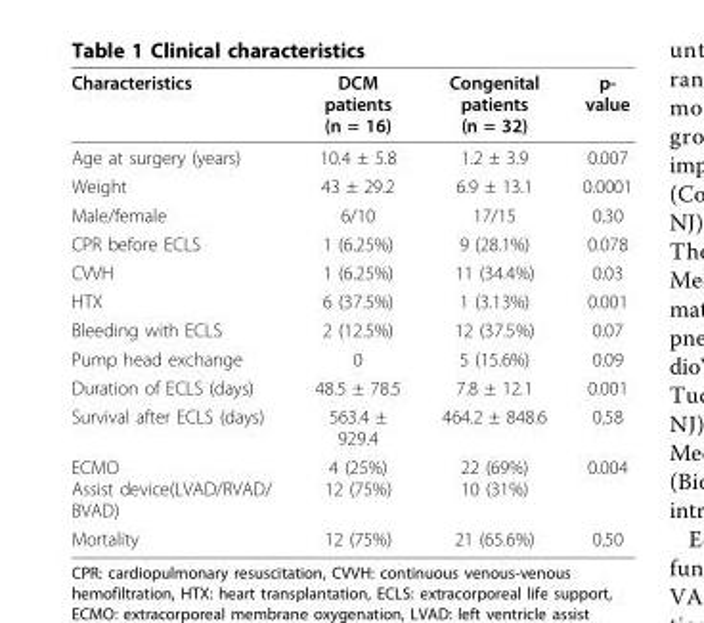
<table><thead><tr><td>Characteristics</td><td>DCM patients (n = 16)</td><td>Congenital patients (n = 32)</td><td>p- value</td></tr></thead><tbody><tr><td>Age at surgery (years)</td><td>10.4 ± 5.8</td><td>1.2 ± 3.9</td><td>0.007</td></tr><tr><td>Weight</td><td>43 ± 29.2</td><td>6.9 ± 13.1</td><td>0.0001</td></tr><tr><td>Male/female</td><td>6/10</td><td>17/15</td><td>0.30</td></tr><tr><td>CPR before ECLS</td><td>1 (6.25%)</td><td>9 (28.1%)</td><td>0.078</td></tr><tr><td>CVVH</td><td>1 (6.25%)</td><td>11 (34.4%)</td><td>0.03</td></tr><tr><td>HTX</td><td>6 (37.5%)</td><td>1 (3.13%)</td><td>0.001</td></tr><tr><td>Bleeding with ECLS</td><td>2 (12.5%)</td><td>12 (37.5%)</td><td>0.07</td></tr><tr><td>Pump head exchange</td><td>0</td><td>5 (15.6%)</td><td>0.09</td></tr><tr><td>Duration of ECLS (days)</td><td>48.5 ± 78.5</td><td>7.8 ± 12.1</td><td>0.001</td></tr><tr><td>Survival after ECLS (days)</td><td>563.4 ± 929.4</td><td>464.2 ± 848.6</td><td>0.58</td></tr><tr><td>ECMO Assist device(LVAD/RVAD/ BVAD)</td><td>4 (25%) 12 (75%)</td><td>22 (69%) 10 (31%)</td><td>0.004</td></tr><tr><td>Mortality</td><td>12 (75%)</td><td>21 (65.6%)</td><td>0.50</td></tr></tbody></table>